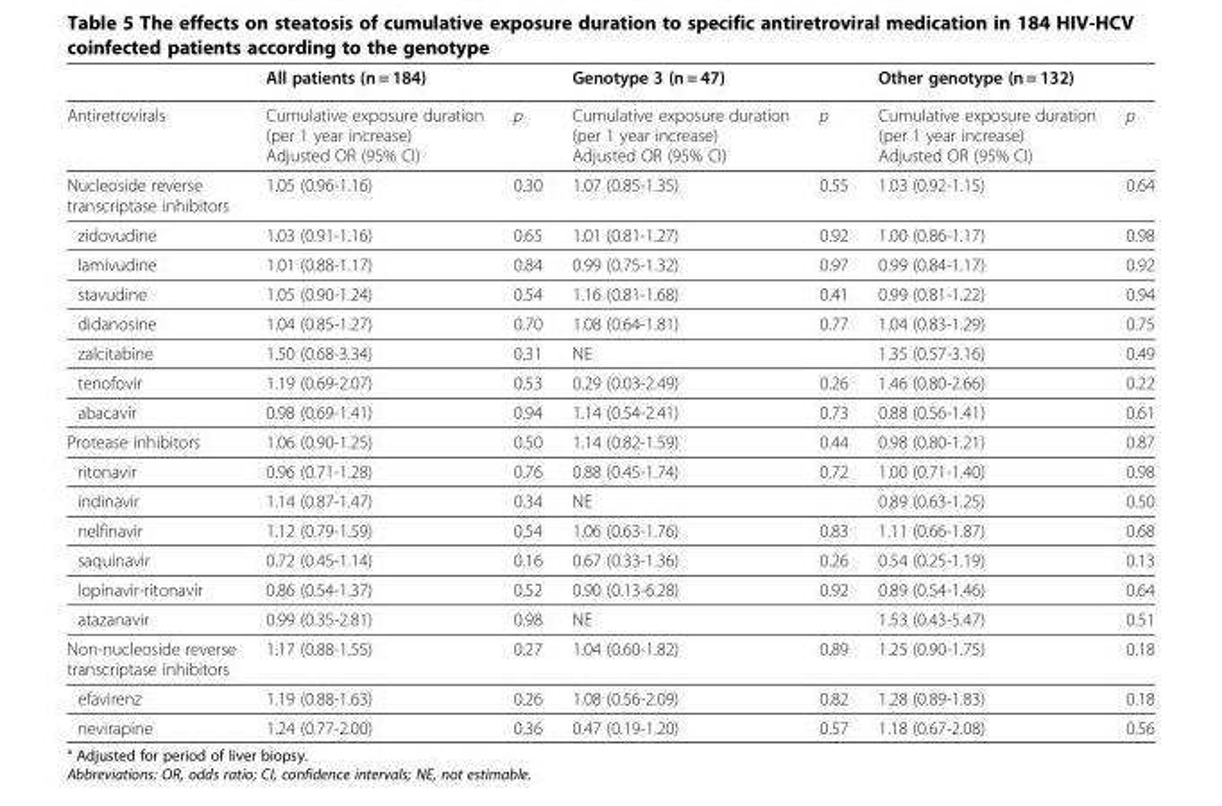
<table><thead><tr><td></td><td>All patients (n = 184)</td><td></td><td>Genotype 3 (n = 47)</td><td></td><td>Other genotype (n = 132)</td><td></td></tr></thead><tbody><tr><td>Antiretrovirals</td><td>Cumulative exposure duration (per 1 year increase) Adjusted OR (95% CI)</td><td>p</td><td>Cumulative exposure duration (per 1 year increase) Adjusted OR (95% CI)</td><td>p</td><td>Cumulative exposure duration (per 1 year increase) Adjusted OR (95% CI)</td><td>p</td></tr><tr><td>Nucleoside reverse transcriptase inhibitors</td><td>1.05 (0.96-1.16)</td><td>0.30</td><td>1.07 (0.85-1.35)</td><td>0.55</td><td>1.03 (0.92-1.15)</td><td>0.64</td></tr><tr><td>zidovudine</td><td>1.03 (0.91-1.16)</td><td>0.65</td><td>1.01 (0.81-1.27)</td><td>0.92</td><td>1.00 (0.86-1.17)</td><td>0.98</td></tr><tr><td>lamivudine</td><td>1.01 (0.88-1.17)</td><td>0.84</td><td>0.99 (0.75-1.32)</td><td>0.97</td><td>0.99 (0.84-1.17)</td><td>0.92</td></tr><tr><td>stavudine</td><td>1.05 (0.90-1.24)</td><td>0.54</td><td>1.16 (0.81-1.68)</td><td>0.41</td><td>0.99 (0.81-1.22)</td><td>0.94</td></tr><tr><td>didanosine</td><td>1.04 (0.85-1.27)</td><td>0.70</td><td>1.08 (0.64-1.81)</td><td>0.77</td><td>1.04 (0.83-1.29)</td><td>0.75</td></tr><tr><td>zalcitabine</td><td>1.50 (0.68-3.34)</td><td>0.31</td><td>NE</td><td></td><td>1.35 (0.57-3.16)</td><td>0.49</td></tr><tr><td>tenofovir</td><td>1.19 (0.69-2.07)</td><td>0.53</td><td>0.29 (0.03-2.49)</td><td>0.26</td><td>1.46 (0.80-2.66)</td><td>0.22</td></tr><tr><td>abacavir</td><td>0.98 (0.69-1.41)</td><td>0.94</td><td>1.14 (0.54-2.41)</td><td>0.73</td><td>0.88 (0.56-1.41)</td><td>0.61</td></tr><tr><td>Protease inhibitors</td><td>1.06 (0.90-1.25)</td><td>0.50</td><td>1.14 (0.82-1.59)</td><td>0.44</td><td>0.98 (0.80-1.21)</td><td>0.87</td></tr><tr><td>ritonavir</td><td>0.96 (0.71-1.28)</td><td>0.76</td><td>0.88 (0.45-1.74)</td><td>0.72</td><td>1.00 (0.71-1.40)</td><td>0.98</td></tr><tr><td>indinavir</td><td>1.14 (0.87-1.47)</td><td>0.34</td><td>NE</td><td></td><td>0.89 (0.63-1.25)</td><td>0.50</td></tr><tr><td>nelfinavir</td><td>1.12 (0.79-1.59)</td><td>0.54</td><td>1.06 (0.63-1.76)</td><td>0.83</td><td>1.11 (0.66-1.87)</td><td>0.68</td></tr><tr><td>saquinavir</td><td>0.72 (0.45-1.14)</td><td>0.16</td><td>0.67 (0.33-1.36)</td><td>0.26</td><td>0.54 (0.25-1.19)</td><td>0.13</td></tr><tr><td>lopinavir-ritonavir</td><td>0.86 (0.54-1.37)</td><td>0.52</td><td>0.90 (0.13-6.28)</td><td>0.92</td><td>0.89 (0.54-1.46)</td><td>0.64</td></tr><tr><td>atazanavir</td><td>0.99 (0.35-2.81)</td><td>0.98</td><td>NE</td><td></td><td>1.53 (0.43-5.47)</td><td>0.51</td></tr><tr><td>Non-nucleoside reverse transcriptase inhibitors</td><td>1.17 (0.88-1.55)</td><td>0.27</td><td>1.04 (0.60-1.82)</td><td>0.89</td><td>1.25 (0.90-1.75)</td><td>0.18</td></tr><tr><td>efavirenz</td><td>1.19 (0.88-1.63)</td><td>0.26</td><td>1.08 (0.56-2.09)</td><td>0.82</td><td>1.28 (0.89-1.83)</td><td>0.18</td></tr><tr><td>nevirapine</td><td>1.24 (0.77-2.00)</td><td>0.36</td><td>0.47 (0.19-1.20)</td><td>0.57</td><td>1.18 (0.67-2.08)</td><td>0.56</td></tr></tbody></table>